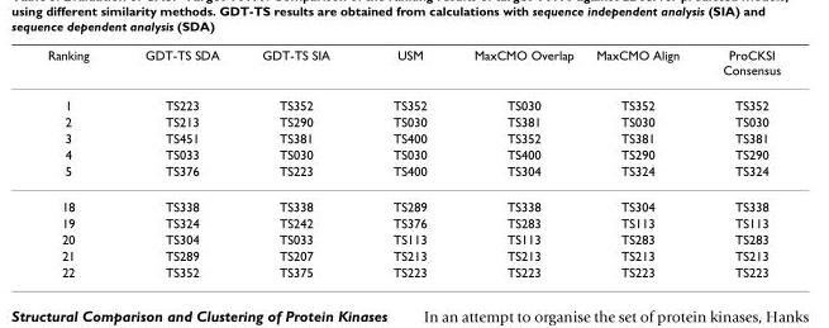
<table><thead><tr><td>Ranking</td><td>GDT-TS SDA</td><td>GDT-TS SIA</td><td>USM</td><td>MaxCMO Overlap</td><td>MaxCMO Align</td><td>ProCKSI Consensus</td></tr></thead><tbody><tr><td>1</td><td>TS223</td><td>TS352</td><td>TS352</td><td>TS030</td><td>TS352</td><td>TS352</td></tr><tr><td>2</td><td>TS213</td><td>TS290</td><td>TS030</td><td>TS381</td><td>TS030</td><td>TS030</td></tr><tr><td>3</td><td>TS451</td><td>TS381</td><td>TS400</td><td>TS352</td><td>TS381</td><td>TS381</td></tr><tr><td>4</td><td>TS033</td><td>TS030</td><td>TS030</td><td>TS400</td><td>TS290</td><td>TS290</td></tr><tr><td>5</td><td>TS376</td><td>TS223</td><td>TS400</td><td>TS304</td><td>TS324</td><td>TS324</td></tr><tr><td>18</td><td>TS338</td><td>TS338</td><td>TS289</td><td>TS338</td><td>TS304</td><td>TS338</td></tr><tr><td>19</td><td>TS324</td><td>TS242</td><td>TS376</td><td>TS283</td><td>TS113</td><td>TS113</td></tr><tr><td>20</td><td>TS304</td><td>TS033</td><td>TS113</td><td>TS113</td><td>TS283</td><td>TS283</td></tr><tr><td>21</td><td>TS289</td><td>TS207</td><td>TS213</td><td>TS213</td><td>TS213</td><td>TS213</td></tr><tr><td>22</td><td>TS352</td><td>TS375</td><td>TS223</td><td>TS223</td><td>TS223</td><td>TS223</td></tr></tbody></table>